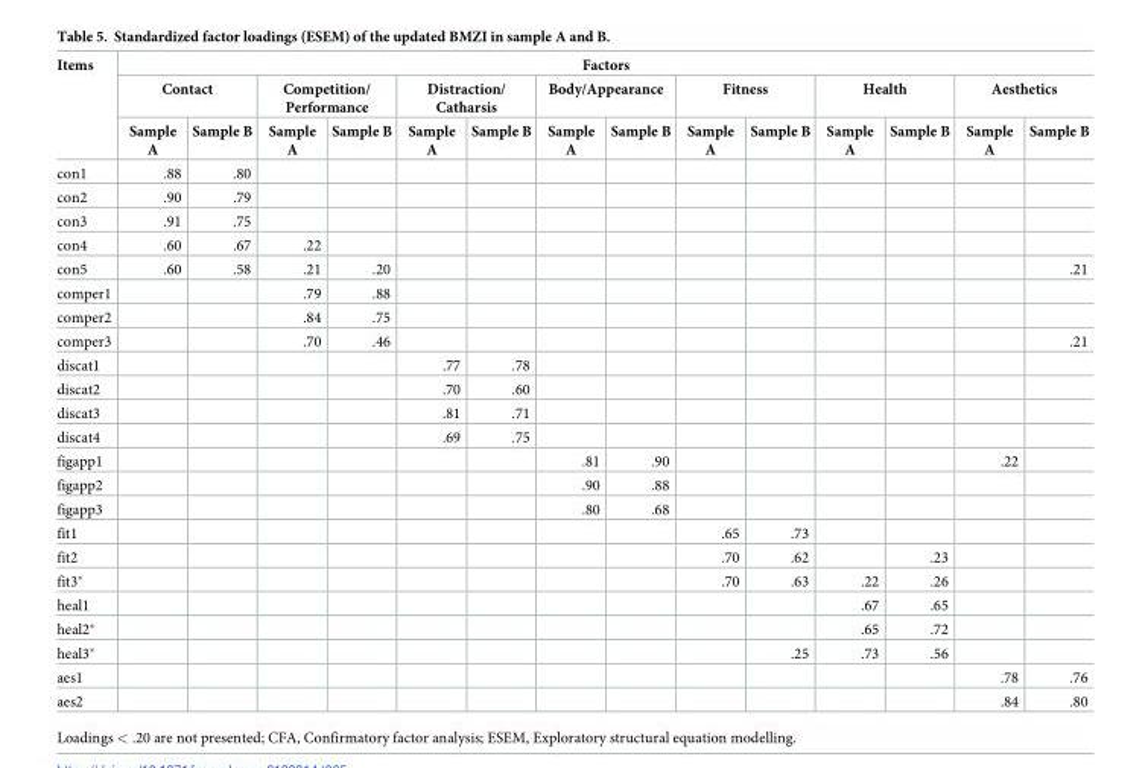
<table><thead><tr><td rowspan="3">Items</td><td colspan="14">Factors</td></tr><tr><td colspan="2">Contact</td><td colspan="2">Competition/ Performance</td><td colspan="2">Distraction/ Catharsis</td><td colspan="2">Body/Appearance</td><td colspan="2">Fitness</td><td colspan="2">Health</td><td colspan="2">Aesthetics</td></tr><tr><td>Sample A</td><td>Sample B</td><td>Sample A</td><td>Sample B</td><td>Sample A</td><td>Sample B</td><td>Sample A</td><td>Sample B</td><td>Sample A</td><td>Sample B</td><td>Sample A</td><td>Sample B</td><td>Sample A</td><td>Sample B</td></tr></thead><tbody><tr><td>con1</td><td>.88</td><td>.80</td><td></td><td></td><td></td><td></td><td></td><td></td><td></td><td></td><td></td><td></td><td></td><td></td></tr><tr><td>con2</td><td>.90</td><td>.79</td><td></td><td></td><td></td><td></td><td></td><td></td><td></td><td></td><td></td><td></td><td></td><td></td></tr><tr><td>con3</td><td>.91</td><td>.75</td><td></td><td></td><td></td><td></td><td></td><td></td><td></td><td></td><td></td><td></td><td></td><td></td></tr><tr><td>con4</td><td>.60</td><td>.67</td><td>.22</td><td></td><td></td><td></td><td></td><td></td><td></td><td></td><td></td><td></td><td></td><td></td></tr><tr><td>con5</td><td>.60</td><td>.58</td><td>.21</td><td>.20</td><td></td><td></td><td></td><td></td><td></td><td></td><td></td><td></td><td></td><td>.21</td></tr><tr><td>comper1</td><td></td><td></td><td>.79</td><td>.88</td><td></td><td></td><td></td><td></td><td></td><td></td><td></td><td></td><td></td><td></td></tr><tr><td>comper2</td><td></td><td></td><td>.84</td><td>.75</td><td></td><td></td><td></td><td></td><td></td><td></td><td></td><td></td><td></td><td></td></tr><tr><td>comper3</td><td></td><td></td><td>.70</td><td>.46</td><td></td><td></td><td></td><td></td><td></td><td></td><td></td><td></td><td></td><td>.21</td></tr><tr><td>discat1</td><td></td><td></td><td></td><td></td><td>.77</td><td>.78</td><td></td><td></td><td></td><td></td><td></td><td></td><td></td><td></td></tr><tr><td>discat2</td><td></td><td></td><td></td><td></td><td>.70</td><td>.60</td><td></td><td></td><td></td><td></td><td></td><td></td><td></td><td></td></tr><tr><td>discat3</td><td></td><td></td><td></td><td></td><td>.81</td><td>.71</td><td></td><td></td><td></td><td></td><td></td><td></td><td></td><td></td></tr><tr><td>discat4</td><td></td><td></td><td></td><td></td><td>.69</td><td>.75</td><td></td><td></td><td></td><td></td><td></td><td></td><td></td><td></td></tr><tr><td>figapp1</td><td></td><td></td><td></td><td></td><td></td><td></td><td>.81</td><td>.90</td><td></td><td></td><td></td><td></td><td>.22</td><td></td></tr><tr><td>figapp2</td><td></td><td></td><td></td><td></td><td></td><td></td><td>.90</td><td>.88</td><td></td><td></td><td></td><td></td><td></td><td></td></tr><tr><td>figapp3</td><td></td><td></td><td></td><td></td><td></td><td></td><td>.80</td><td>.68</td><td></td><td></td><td></td><td></td><td></td><td></td></tr><tr><td>fit1</td><td></td><td></td><td></td><td></td><td></td><td></td><td></td><td></td><td>.65</td><td>.73</td><td></td><td></td><td></td><td></td></tr><tr><td>fit2</td><td></td><td></td><td></td><td></td><td></td><td></td><td></td><td></td><td>.70</td><td>.62</td><td></td><td>.23</td><td></td><td></td></tr><tr><td>fit3*</td><td></td><td></td><td></td><td></td><td></td><td></td><td></td><td></td><td>.70</td><td>.63</td><td>.22</td><td>.26</td><td></td><td></td></tr><tr><td>heal1</td><td></td><td></td><td></td><td></td><td></td><td></td><td></td><td></td><td></td><td></td><td>.67</td><td>.65</td><td></td><td></td></tr><tr><td>heal2*</td><td></td><td></td><td></td><td></td><td></td><td></td><td></td><td></td><td></td><td></td><td>.65</td><td>.72</td><td></td><td></td></tr><tr><td>heal3*</td><td></td><td></td><td></td><td></td><td></td><td></td><td></td><td></td><td></td><td>.25</td><td>.73</td><td>.56</td><td></td><td></td></tr><tr><td>aes1</td><td></td><td></td><td></td><td></td><td></td><td></td><td></td><td></td><td></td><td></td><td></td><td></td><td>.78</td><td>.76</td></tr><tr><td>aes2</td><td></td><td></td><td></td><td></td><td></td><td></td><td></td><td></td><td></td><td></td><td></td><td></td><td>.84</td><td>.80</td></tr></tbody></table>